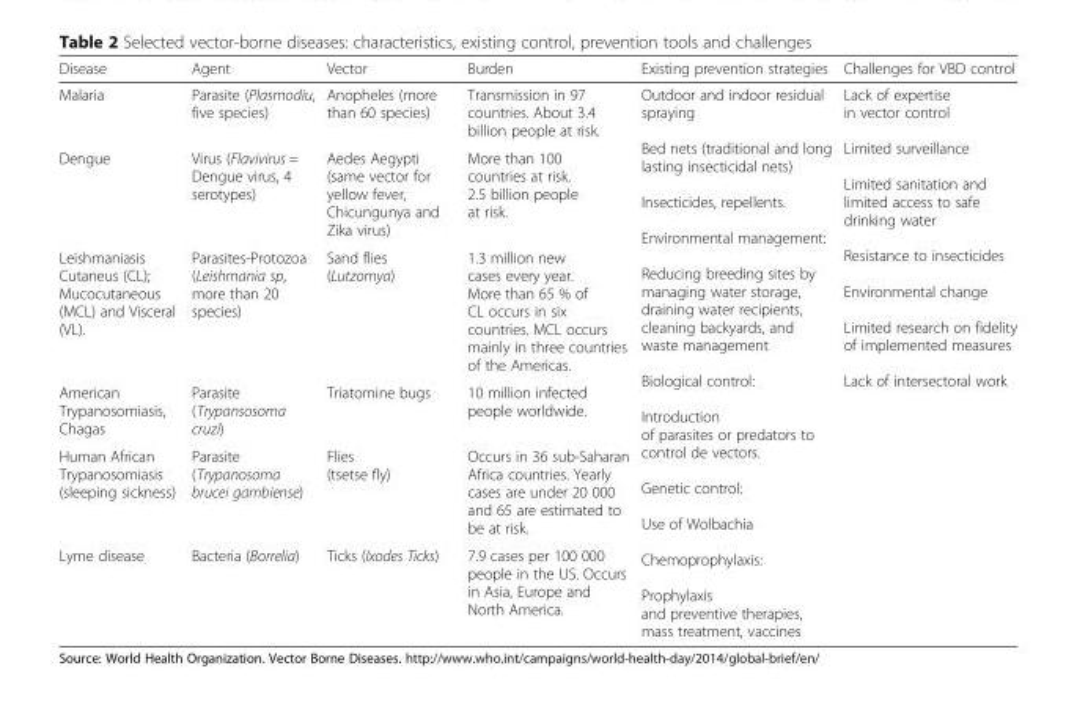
<table><thead><tr><td>Disease</td><td>Agent</td><td>Vector</td><td>Burden</td><td>Existing prevention strategies</td><td>Challenges for VBD control</td></tr></thead><tbody><tr><td>Malaria</td><td>Parasite (Plasmodiu, five species)</td><td>Anopheles (more than 60 species)</td><td>Transmission in 97 countries. About 3.4 billion people at risk.</td><td rowspan="6">Outdoor and indoor residual spraying Bed nets (traditional and long lasting insecticidal nets) Insecticides, repellents. Environmental management: Reducing breeding sites by managing water storage, draining water recipients, cleaning backyards, and waste management Biological control: Introduction of parasites or predators to control de vectors. Genetic control: Use of Wolbachia Chemoprophylaxis: Prophylaxis and preventive therapies, mass treatment, vaccines</td><td rowspan="6">Lack of expertise in vector control Limited surveillance Limited sanitation and limited access to safe drinking water Resistance to insecticides Environmental change Limited research on fidelity of implemented measures Lack of intersectoral work</td></tr><tr><td>Dengue</td><td>Virus (Flavivirus = Dengue virus, 4 serotypes)</td><td>Aedes Aegypti (same vector for yellow fever, Chicungunya and Zika virus)</td><td>More than 100 countries at risk. 2.5 billion people at risk.</td></tr><tr><td>Leishmaniasis Cutaneus (CL); Mucocutaneous (MCL) and Visceral (VL).</td><td>Parasites-Protozoa (Leishmania sp, more than 20 species)</td><td>Sand flies (Lutzomya)</td><td>1.3 million new cases every year. More than 65 % of CL occurs in six countries. MCL occurs mainly in three countries of the Americas.</td></tr><tr><td>American Trypanosomiasis, Chagas</td><td>Parasite (Trypansosoma cruzi)</td><td>Triatomine bugs</td><td>10 million infected people worldwide.</td></tr><tr><td>Human African Trypanosomiasis (sleeping sickness)</td><td>Parasite (Trypanosoma brucei gambiense)</td><td>Flies (tsetse fly)</td><td>Occurs in 36 sub-Saharan Africa countries. Yearly cases are under 20 000 and 65 are estimated to be at risk.</td></tr><tr><td>Lyme disease</td><td>Bacteria (Borrelia)</td><td>Ticks (Ixodes Ticks)</td><td>7.9 cases per 100 000 people in the US. Occurs in Asia, Europe and North America.</td></tr></tbody></table>